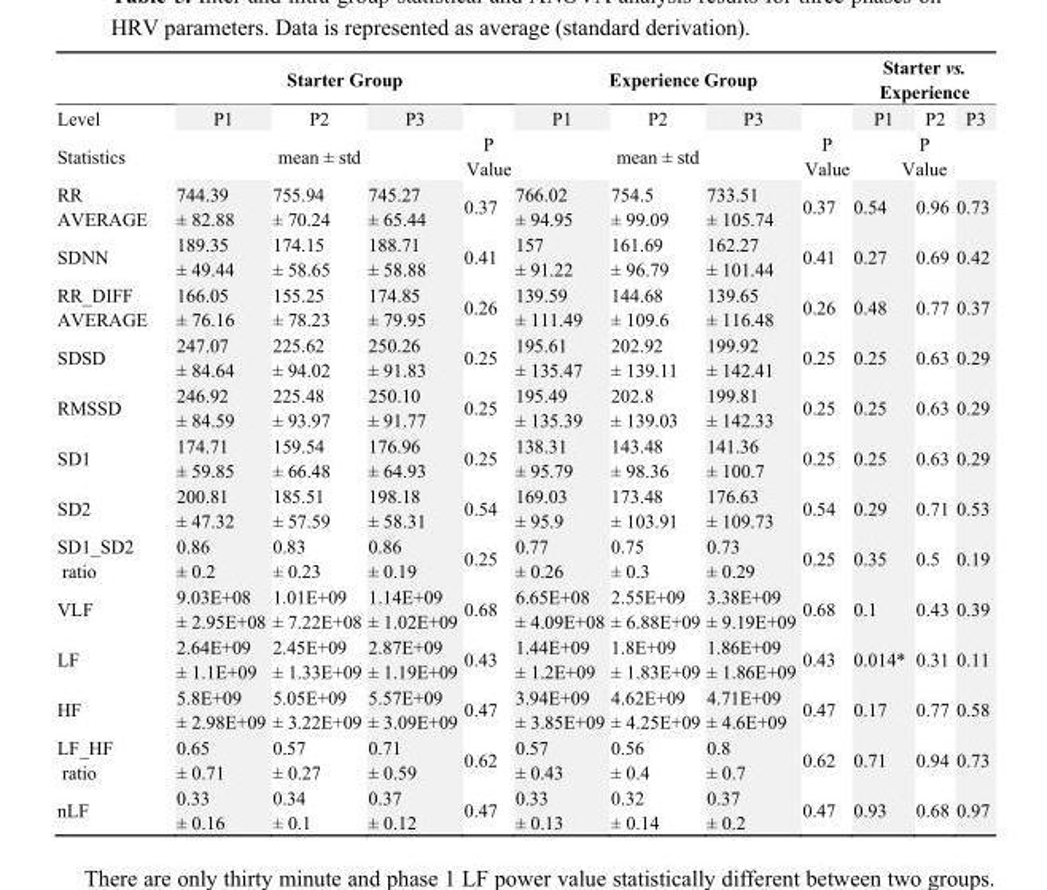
<table><thead><tr><td rowspan="3">Level Statistics</td><td colspan="4">Starter Group</td><td colspan="4">Experience Group</td><td colspan="3">Starter vs. Experience</td></tr><tr><td>P1</td><td>P2</td><td>P3</td><td rowspan="2">P Value</td><td>P1</td><td>P2</td><td>P3</td><td rowspan="2">P Value</td><td>P1</td><td>P2</td><td>P3</td></tr><tr><td colspan="3">mean ± std</td><td colspan="3">mean ± std</td><td colspan="3">P Value</td></tr></thead><tbody><tr><td>RR AVERAGE</td><td>744.39 ± 82.88</td><td>755.94 ± 70.24</td><td>745.27 ± 65.44</td><td>0.37</td><td>766.02 ± 94.95</td><td>754.5 ± 99.09</td><td>733.51 ± 105.74</td><td>0.37</td><td>0.54</td><td>0.96</td><td>0.73</td></tr><tr><td>SDNN</td><td>189.35 ± 49.44</td><td>174.15 ± 58.65</td><td>188.71 ± 58.88</td><td>0.41</td><td>157 ± 91.22</td><td>161.69 ± 96.79</td><td>162.27 ± 101.44</td><td>0.41</td><td>0.27</td><td>0.69</td><td>0.42</td></tr><tr><td>RR_DIFF AVERAGE</td><td>166.05 ± 76.16</td><td>155.25 ± 78.23</td><td>174.85 ± 79.95</td><td>0.26</td><td>139.59 ± 111.49</td><td>144.68 ± 109.6</td><td>139.65 ± 116.48</td><td>0.26</td><td>0.48</td><td>0.77</td><td>0.37</td></tr><tr><td>SDSD</td><td>247.07 ± 84.64</td><td>225.62 ± 94.02</td><td>250.26 ± 91.83</td><td>0.25</td><td>195.61 ± 135.47</td><td>202.92 ± 139.11</td><td>199.92 ± 142.41</td><td>0.25</td><td>0.25</td><td>0.63</td><td>0.29</td></tr><tr><td>RMSSD</td><td>246.92 ± 84.59</td><td>225.48 ± 93.97</td><td>250.10 ± 91.77</td><td>0.25</td><td>195.49 ± 135.39</td><td>202.8 ± 139.03</td><td>199.81 ± 142.33</td><td>0.25</td><td>0.25</td><td>0.63</td><td>0.29</td></tr><tr><td>SD1</td><td>174.71 ± 59.85</td><td>159.54 ± 66.48</td><td>176.96 ± 64.93</td><td>0.25</td><td>138.31 ± 95.79</td><td>143.48 ± 98.36</td><td>141.36 ± 100.7</td><td>0.25</td><td>0.25</td><td>0.63</td><td>0.29</td></tr><tr><td>SD2</td><td>200.81 ± 47.32</td><td>185.51 ± 57.59</td><td>198.18 ± 58.31</td><td>0.54</td><td>169.03 ± 95.9</td><td>173.48 ± 103.91</td><td>176.63 ± 109.73</td><td>0.54</td><td>0.29</td><td>0.71</td><td>0.53</td></tr><tr><td>SD1_SD2 ratio</td><td>0.86 ± 0.2</td><td>0.83 ± 0.23</td><td>0.86 ± 0.19</td><td>0.25</td><td>0.77 ± 0.26</td><td>0.75 ± 0.3</td><td>0.73 ± 0.29</td><td>0.25</td><td>0.35</td><td>0.5</td><td>0.19</td></tr><tr><td>VLF</td><td>9.03E+08 ± 2.95E+08</td><td>1.01E+09 ± 7.22E+08</td><td>1.14E+09 ± 1.02E+09</td><td>0.68</td><td>6.65E+08 ± 4.09E+08</td><td>2.55E+09 ± 6.88E+09</td><td>3.38E+09 ± 9.19E+09</td><td>0.68</td><td>0.1</td><td>0.43</td><td>0.39</td></tr><tr><td>LF</td><td>2.64E+09 ± 1.1E+09</td><td>2.45E+09 ± 1.33E+09</td><td>2.87E+09 ± 1.19E+09</td><td>0.43</td><td>1.44E+09 ± 1.2E+09</td><td>1.8E+09 ± 1.83E+09</td><td>1.86E+09 ± 1.86E+09</td><td>0.43</td><td>0.014*</td><td>0.31</td><td>0.11</td></tr><tr><td>HF</td><td>5.8E+09 ± 2.98E+09</td><td>5.05E+09 ± 3.22E+09</td><td>5.57E+09 ± 3.09E+09</td><td>0.47</td><td>3.94E+09 ± 3.85E+09</td><td>4.62E+09 ± 4.25E+09</td><td>4.71E+09 ± 4.6E+09</td><td>0.47</td><td>0.17</td><td>0.77</td><td>0.58</td></tr><tr><td>LF_HF ratio</td><td>0.65 ± 0.71</td><td>0.57 ± 0.27</td><td>0.71 ± 0.59</td><td>0.62</td><td>0.57 ± 0.43</td><td>0.56 ± 0.4</td><td>0.8 ± 0.7</td><td>0.62</td><td>0.71</td><td>0.94</td><td>0.73</td></tr><tr><td>nLF</td><td>0.33 ± 0.16</td><td>0.34 ± 0.1</td><td>0.37 ± 0.12</td><td>0.47</td><td>0.33 ± 0.13</td><td>0.32 ± 0.14</td><td>0.37 ± 0.2</td><td>0.47</td><td>0.93</td><td>0.68</td><td>0.97</td></tr></tbody></table>